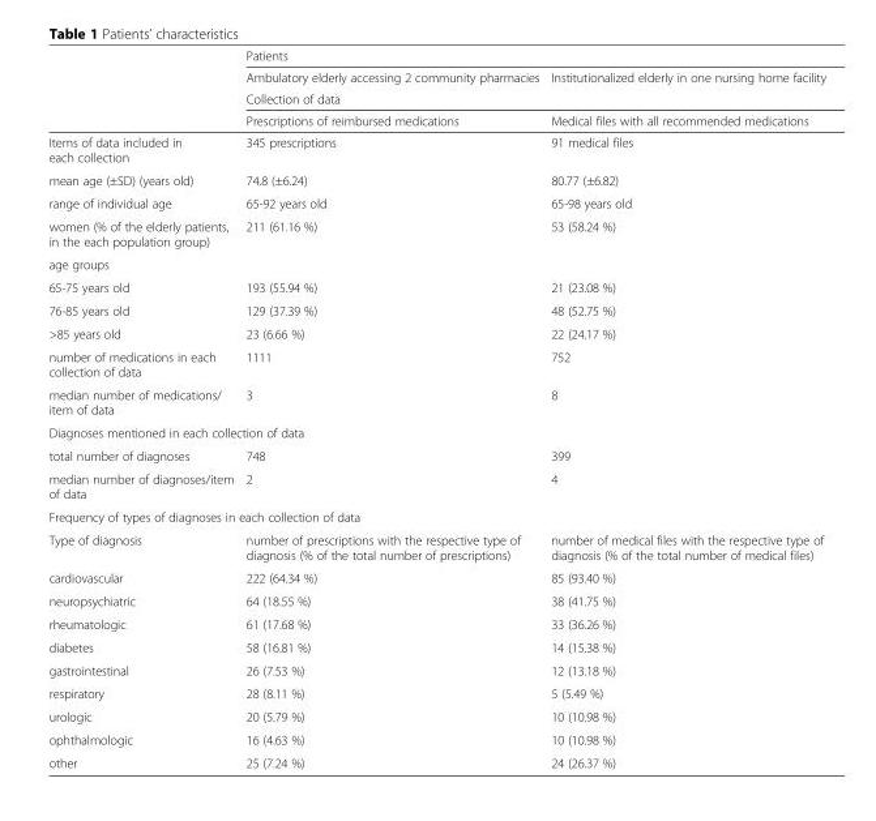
<table><thead><tr><td rowspan="4"></td><td colspan="2">Patients</td></tr><tr><td>Ambulatory elderly accessing 2 community pharmacies</td><td>Institutionalized elderly in one nursing home facility</td></tr><tr><td colspan="2">Collection of data</td></tr><tr><td>Prescriptions of reimbursed medications</td><td>Medical files with all recommended medications</td></tr></thead><tbody><tr><td>Items of data included in each collection</td><td>345 prescriptions</td><td>91 medical files</td></tr><tr><td>mean age (±SD) (years old)</td><td>74.8 (±6.24)</td><td>80.77 (±6.82)</td></tr><tr><td>range of individual age</td><td>65-92 years old</td><td>65-98 years old</td></tr><tr><td>women (% of the elderly patients, in the each population group)</td><td>211 (61.16 %)</td><td>53 (58.24 %)</td></tr><tr><td colspan="3">age groups</td></tr><tr><td>65-75 years old</td><td>193 (55.94 %)</td><td>21 (23.08 %)</td></tr><tr><td>76-85 years old</td><td>129 (37.39 %)</td><td>48 (52.75 %)</td></tr><tr><td>&gt;85 years old</td><td>23 (6.66 %)</td><td>22 (24.17 %)</td></tr><tr><td>number of medications in each collection of data</td><td>1111</td><td>752</td></tr><tr><td>median number of medications/ item of data</td><td>3</td><td>8</td></tr><tr><td colspan="3">Diagnoses mentioned in each collection of data</td></tr><tr><td>total number of diagnoses</td><td>748</td><td>399</td></tr><tr><td>median number of diagnoses/item of data</td><td>2</td><td>4</td></tr><tr><td colspan="3">Frequency of types of diagnoses in each collection of data</td></tr><tr><td>Type of diagnosis</td><td>number of prescriptions with the respective type of diagnosis (% of the total number of prescriptions)</td><td>number of medical files with the respective type of diagnosis (% of the total number of medical files)</td></tr><tr><td>cardiovascular</td><td>222 (64.34 %)</td><td>85 (93.40 %)</td></tr><tr><td>neuropsychiatric</td><td>64 (18.55 %)</td><td>38 (41.75 %)</td></tr><tr><td>rheumatologic</td><td>61 (17.68 %)</td><td>33 (36.26 %)</td></tr><tr><td>diabetes</td><td>58 (16.81 %)</td><td>14 (15.38 %)</td></tr><tr><td>gastrointestinal</td><td>26 (7.53 %)</td><td>12 (13.18 %)</td></tr><tr><td>respiratory</td><td>28 (8.11 %)</td><td>5 (5.49 %)</td></tr><tr><td>urologic</td><td>20 (5.79 %)</td><td>10 (10.98 %)</td></tr><tr><td>ophthalmologic</td><td>16 (4.63 %)</td><td>10 (10.98 %)</td></tr><tr><td>other</td><td>25 (7.24 %)</td><td>24 (26.37 %)</td></tr></tbody></table>